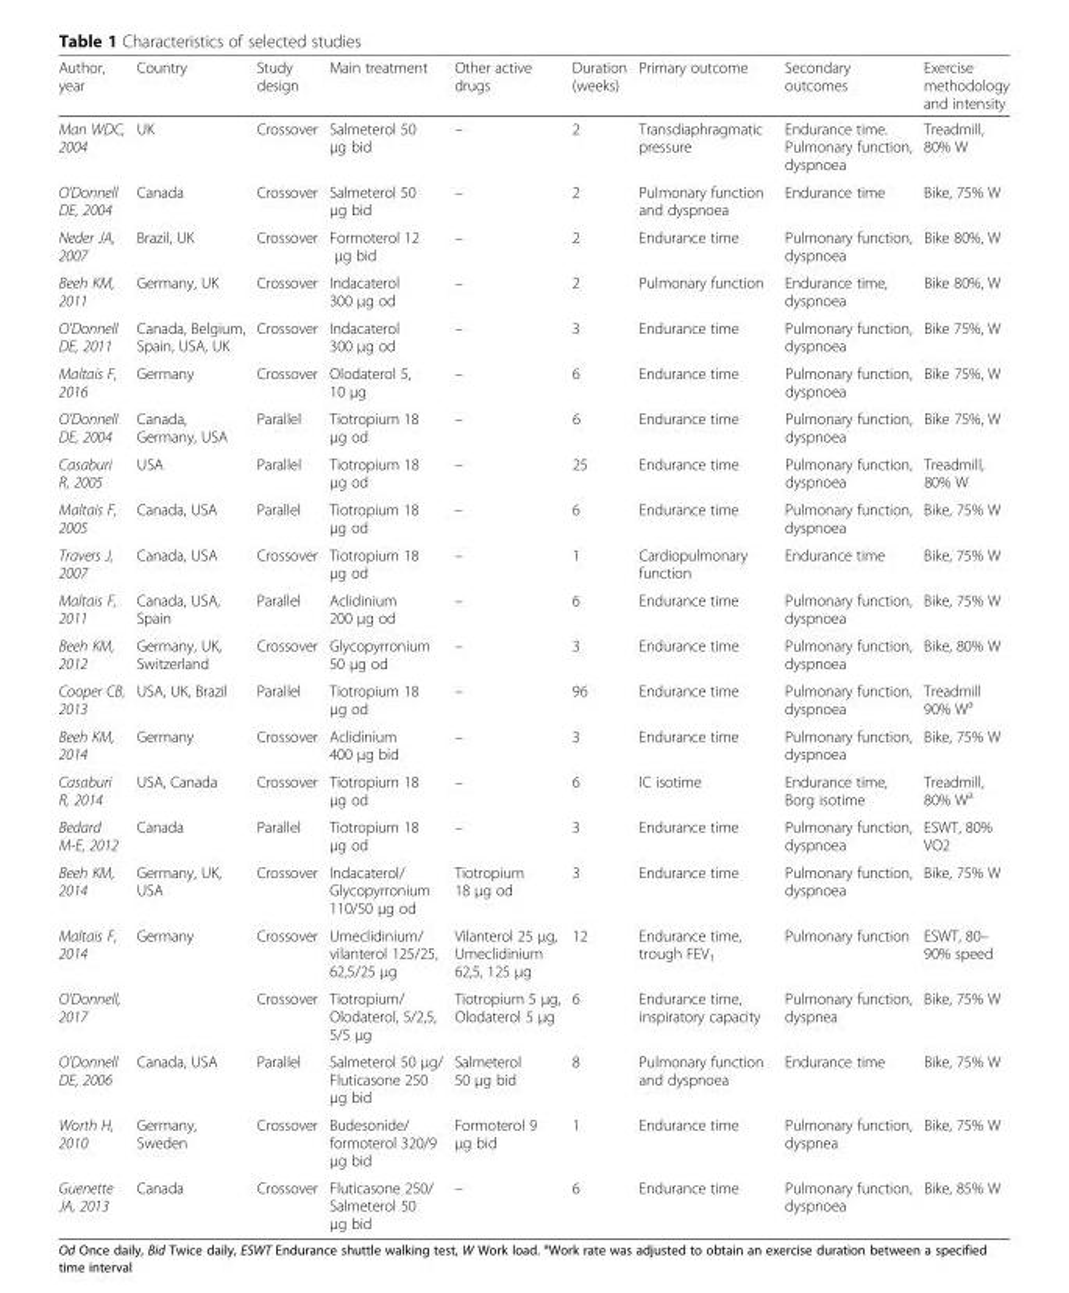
<table><thead><tr><td>Author, year</td><td>Country</td><td>Study design</td><td>Main treatment</td><td>Other active drugs</td><td>Duration (weeks)</td><td>Primary outcome</td><td>Secondary outcomes</td><td>Exercise methodology and intensity</td></tr></thead><tbody><tr><td>Man WDC, 2004</td><td>UK</td><td>Crossover</td><td>Salmeterol 50 μg bid</td><td>–</td><td>2</td><td>Transdiaphragmatic pressure</td><td>Endurance time. Pulmonary function, dyspnoea</td><td>Treadmill, 80% W</td></tr><tr><td>O’Donnell DE, 2004</td><td>Canada</td><td>Crossover</td><td>Salmeterol 50 μg bid</td><td>–</td><td>2</td><td>Pulmonary function and dyspnoea</td><td>Endurance time</td><td>Bike, 75% W</td></tr><tr><td>Neder JA, 2007</td><td>Brazil, UK</td><td>Crossover</td><td>Formoterol 12 μg bid</td><td>–</td><td>2</td><td>Endurance time</td><td>Pulmonary function, dyspnoea</td><td>Bike 80%, W</td></tr><tr><td>Beeh KM, 2011</td><td>Germany, UK</td><td>Crossover</td><td>Indacaterol 300 μg od</td><td>–</td><td>2</td><td>Pulmonary function</td><td>Endurance time, dyspnoea</td><td>Bike 80%, W</td></tr><tr><td>O’Donnell DE, 2011</td><td>Canada, Belgium, Spain, USA, UK</td><td>Crossover</td><td>Indacaterol 300 μg od</td><td>–</td><td>3</td><td>Endurance time</td><td>Pulmonary function, dyspnoea</td><td>Bike 75%, W</td></tr><tr><td>Maltais F, 2016</td><td>Germany</td><td>Crossover</td><td>Olodaterol 5, 10 μg</td><td>–</td><td>6</td><td>Endurance time</td><td>Pulmonary function, dyspnoea</td><td>Bike 75%, W</td></tr><tr><td>O’Donnell DE, 2004</td><td>Canada, Germany, USA</td><td>Parallel</td><td>Tiotropium 18 μg od</td><td>–</td><td>6</td><td>Endurance time</td><td>Pulmonary function, dyspnoea</td><td>Bike 75%, W</td></tr><tr><td>Casaburi R, 2005</td><td>USA</td><td>Parallel</td><td>Tiotropium 18 μg od</td><td>–</td><td>25</td><td>Endurance time</td><td>Pulmonary function, dyspnoea</td><td>Treadmill, 80% W</td></tr><tr><td>Maltais F, 2005</td><td>Canada, USA</td><td>Parallel</td><td>Tiotropium 18 μg od</td><td>–</td><td>6</td><td>Endurance time</td><td>Pulmonary function, dyspnoea</td><td>Bike, 75% W</td></tr><tr><td>Travers J, 2007</td><td>Canada, USA</td><td>Crossover</td><td>Tiotropium 18 μg od</td><td>–</td><td>1</td><td>Cardiopulmonary function</td><td>Endurance time</td><td>Bike, 75% W</td></tr><tr><td>Maltais F, 2011</td><td>Canada, USA, Spain</td><td>Parallel</td><td>Aclidinium 200 μg od</td><td>–</td><td>6</td><td>Endurance time</td><td>Pulmonary function, dyspnoea</td><td>Bike, 75% W</td></tr><tr><td>Beeh KM, 2012</td><td>Germany, UK, Switzerland</td><td>Crossover</td><td>Glycopyrronium 50 μg od</td><td>–</td><td>3</td><td>Endurance time</td><td>Pulmonary function, dyspnoea</td><td>Bike, 80% W</td></tr><tr><td>Cooper CB, 2013</td><td>USA, UK, Brazil</td><td>Parallel</td><td>Tiotropium 18 μg od</td><td>–</td><td>96</td><td>Endurance time</td><td>Pulmonary function, dyspnoea</td><td>Treadmill 90% W<sup>a</sup></td></tr><tr><td>Beeh KM, 2014</td><td>Germany</td><td>Crossover</td><td>Aclidinium 400 μg bid</td><td>–</td><td>3</td><td>Endurance time</td><td>Pulmonary function, dyspnoea</td><td>Bike, 75% W</td></tr><tr><td>Casaburi R, 2014</td><td>USA, Canada</td><td>Crossover</td><td>Tiotropium 18 μg od</td><td>–</td><td>6</td><td>IC isotime</td><td>Endurance time, Borg isotime</td><td>Treadmill, 80% W<sup>a</sup></td></tr><tr><td>Bedard M-E, 2012</td><td>Canada</td><td>Parallel</td><td>Tiotropium 18 μg od</td><td>–</td><td>3</td><td>Endurance time</td><td>Pulmonary function, dyspnoea</td><td>ESWT, 80% VO2</td></tr><tr><td>Beeh KM, 2014</td><td>Germany, UK, USA</td><td>Crossover</td><td>Indacaterol/ Glycopyrronium 110/50 μg od</td><td>Tiotropium 18 μg od</td><td>3</td><td>Endurance time</td><td>Pulmonary function, dyspnoea</td><td>Bike, 75% W</td></tr><tr><td>Maltais F, 2014</td><td>Germany</td><td>Crossover</td><td>Umeclidinium/ vilanterol 125/25, 62,5/25 μg</td><td>Vilanterol 25 μg, Umeclidinium 62,5, 125 μg</td><td>12</td><td>Endurance time, trough FEV<sub>1</sub></td><td>Pulmonary function</td><td>ESWT, 80– 90% speed</td></tr><tr><td>O’Donnell, 2017</td><td></td><td>Crossover</td><td>Tiotropium/ Olodaterol, 5/2,5, 5/5 μg</td><td>Tiotropium 5 μg, Olodaterol 5 μg</td><td>6</td><td>Endurance time, inspiratory capacity</td><td>Pulmonary function, dyspnea</td><td>Bike, 75% W</td></tr><tr><td>O’Donnell DE, 2006</td><td>Canada, USA</td><td>Parallel</td><td>Salmeterol 50 μg/ Fluticasone 250 μg bid</td><td>Salmeterol 50 μg bid</td><td>8</td><td>Pulmonary function and dyspnoea</td><td>Endurance time</td><td>Bike, 75% W</td></tr><tr><td>Worth H, 2010</td><td>Germany, Sweden</td><td>Crossover</td><td>Budesonide/ formoterol 320/9 μg bid</td><td>Formoterol 9 μg bid</td><td>1</td><td>Endurance time</td><td>Pulmonary function, dyspnea</td><td>Bike, 75% W</td></tr><tr><td>Guenette JA, 2013</td><td>Canada</td><td>Crossover</td><td>Fluticasone 250/ Salmeterol 50 μg bid</td><td>–</td><td>6</td><td>Endurance time</td><td>Pulmonary function, dyspnoea</td><td>Bike, 85% W</td></tr></tbody></table>